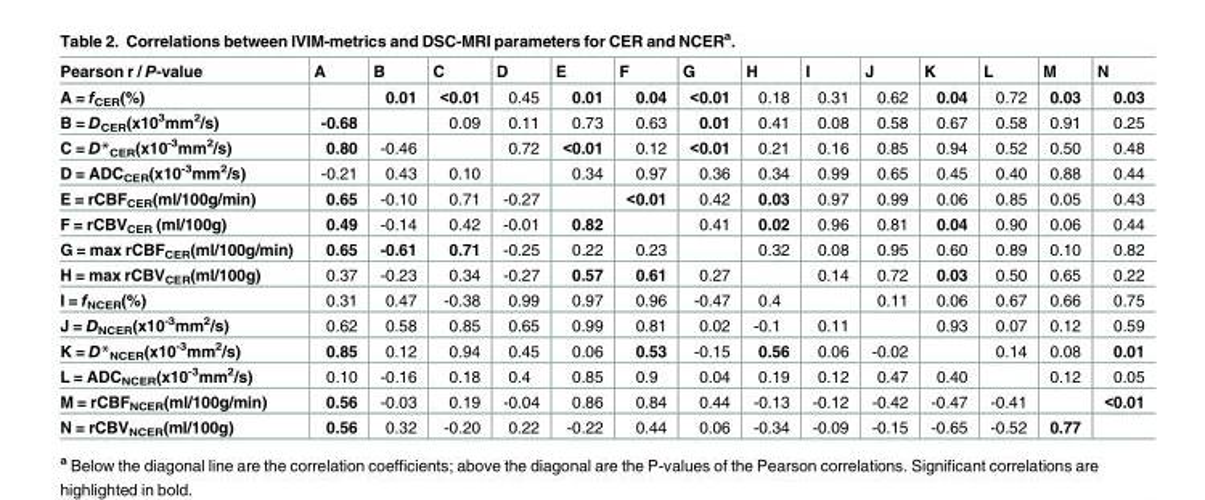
<table><thead><tr><td>Pearson r / P-value</td><td>A</td><td>B</td><td>C</td><td>D</td><td>E</td><td>F</td><td>G</td><td>H</td><td>I</td><td>J</td><td>K</td><td>L</td><td>M</td><td>N</td></tr></thead><tbody><tr><td>A = f<sub>CER</sub>(%)</td><td></td><td>0.01</td><td>&lt;0.01</td><td>0.45</td><td>0.01</td><td>0.04</td><td>&lt;0.01</td><td>0.18</td><td>0.31</td><td>0.62</td><td>0.04</td><td>0.72</td><td>0.03</td><td>0.03</td></tr><tr><td>B = D<sub>CER</sub>(x10<sup>3</sup>mm<sup>2</sup>/s)</td><td>-0.68</td><td></td><td>0.09</td><td>0.11</td><td>0.73</td><td>0.63</td><td>0.01</td><td>0.41</td><td>0.08</td><td>0.58</td><td>0.67</td><td>0.58</td><td>0.91</td><td>0.25</td></tr><tr><td>C = D*<sub>CER</sub>(x10<sup>-3</sup>mm<sup>2</sup>/s)</td><td>0.80</td><td>-0.46</td><td></td><td>0.72</td><td>&lt;0.01</td><td>0.12</td><td>&lt;0.01</td><td>0.21</td><td>0.16</td><td>0.85</td><td>0.94</td><td>0.52</td><td>0.50</td><td>0.48</td></tr><tr><td>D = ADC<sub>CER</sub>(x10<sup>-3</sup>mm<sup>2</sup>/s)</td><td>-0.21</td><td>0.43</td><td>0.10</td><td></td><td>0.34</td><td>0.97</td><td>0.36</td><td>0.34</td><td>0.99</td><td>0.65</td><td>0.45</td><td>0.40</td><td>0.88</td><td>0.44</td></tr><tr><td>E = rCBF<sub>CER</sub>(ml/100g/min)</td><td>0.65</td><td>-0.10</td><td>0.71</td><td>-0.27</td><td></td><td>&lt;0.01</td><td>0.42</td><td>0.03</td><td>0.97</td><td>0.99</td><td>0.06</td><td>0.85</td><td>0.05</td><td>0.43</td></tr><tr><td>F = rCBV<sub>CER</sub> (ml/100g)</td><td>0.49</td><td>-0.14</td><td>0.42</td><td>-0.01</td><td>0.82</td><td></td><td>0.41</td><td>0.02</td><td>0.96</td><td>0.81</td><td>0.04</td><td>0.90</td><td>0.06</td><td>0.44</td></tr><tr><td>G = max rCBF<sub>CER</sub>(ml/100g/min)</td><td>0.65</td><td>-0.61</td><td>0.71</td><td>-0.25</td><td>0.22</td><td>0.23</td><td></td><td>0.32</td><td>0.08</td><td>0.95</td><td>0.60</td><td>0.89</td><td>0.10</td><td>0.82</td></tr><tr><td>H = max rCBV<sub>CER</sub>(ml/100g)</td><td>0.37</td><td>-0.23</td><td>0.34</td><td>-0.27</td><td>0.57</td><td>0.61</td><td>0.27</td><td></td><td>0.14</td><td>0.72</td><td>0.03</td><td>0.50</td><td>0.65</td><td>0.22</td></tr><tr><td>I = f<sub>NCER</sub>(%)</td><td>0.31</td><td>0.47</td><td>-0.38</td><td>0.99</td><td>0.97</td><td>0.96</td><td>-0.47</td><td>0.4</td><td></td><td>0.11</td><td>0.06</td><td>0.67</td><td>0.66</td><td>0.75</td></tr><tr><td>J = D<sub>NCER</sub>(x10<sup>-3</sup>mm<sup>2</sup>/s)</td><td>0.62</td><td>0.58</td><td>0.85</td><td>0.65</td><td>0.99</td><td>0.81</td><td>0.02</td><td>-0.1</td><td>0.11</td><td></td><td>0.93</td><td>0.07</td><td>0.12</td><td>0.59</td></tr><tr><td>K = D*<sub>NCER</sub>(x10<sup>-3</sup>mm<sup>2</sup>/s)</td><td>0.85</td><td>0.12</td><td>0.94</td><td>0.45</td><td>0.06</td><td>0.53</td><td>-0.15</td><td>0.56</td><td>0.06</td><td>-0.02</td><td></td><td>0.14</td><td>0.08</td><td>0.01</td></tr><tr><td>L = ADC<sub>NCER</sub>(x10<sup>-3</sup>mm<sup>2</sup>/s)</td><td>0.10</td><td>-0.16</td><td>0.18</td><td>0.4</td><td>0.85</td><td>0.9</td><td>0.04</td><td>0.19</td><td>0.12</td><td>0.47</td><td>0.40</td><td></td><td>0.12</td><td>0.05</td></tr><tr><td>M = rCBF<sub>NCER</sub>(ml/100g/min)</td><td>0.56</td><td>-0.03</td><td>0.19</td><td>-0.04</td><td>0.86</td><td>0.84</td><td>0.44</td><td>-0.13</td><td>-0.12</td><td>-0.42</td><td>-0.47</td><td>-0.41</td><td></td><td>&lt;0.01</td></tr><tr><td>N = rCBV<sub>NCER</sub>(ml/100g)</td><td>0.56</td><td>0.32</td><td>-0.20</td><td>0.22</td><td>-0.22</td><td>0.44</td><td>0.06</td><td>-0.34</td><td>-0.09</td><td>-0.15</td><td>-0.65</td><td>-0.52</td><td>0.77</td><td></td></tr></tbody></table>